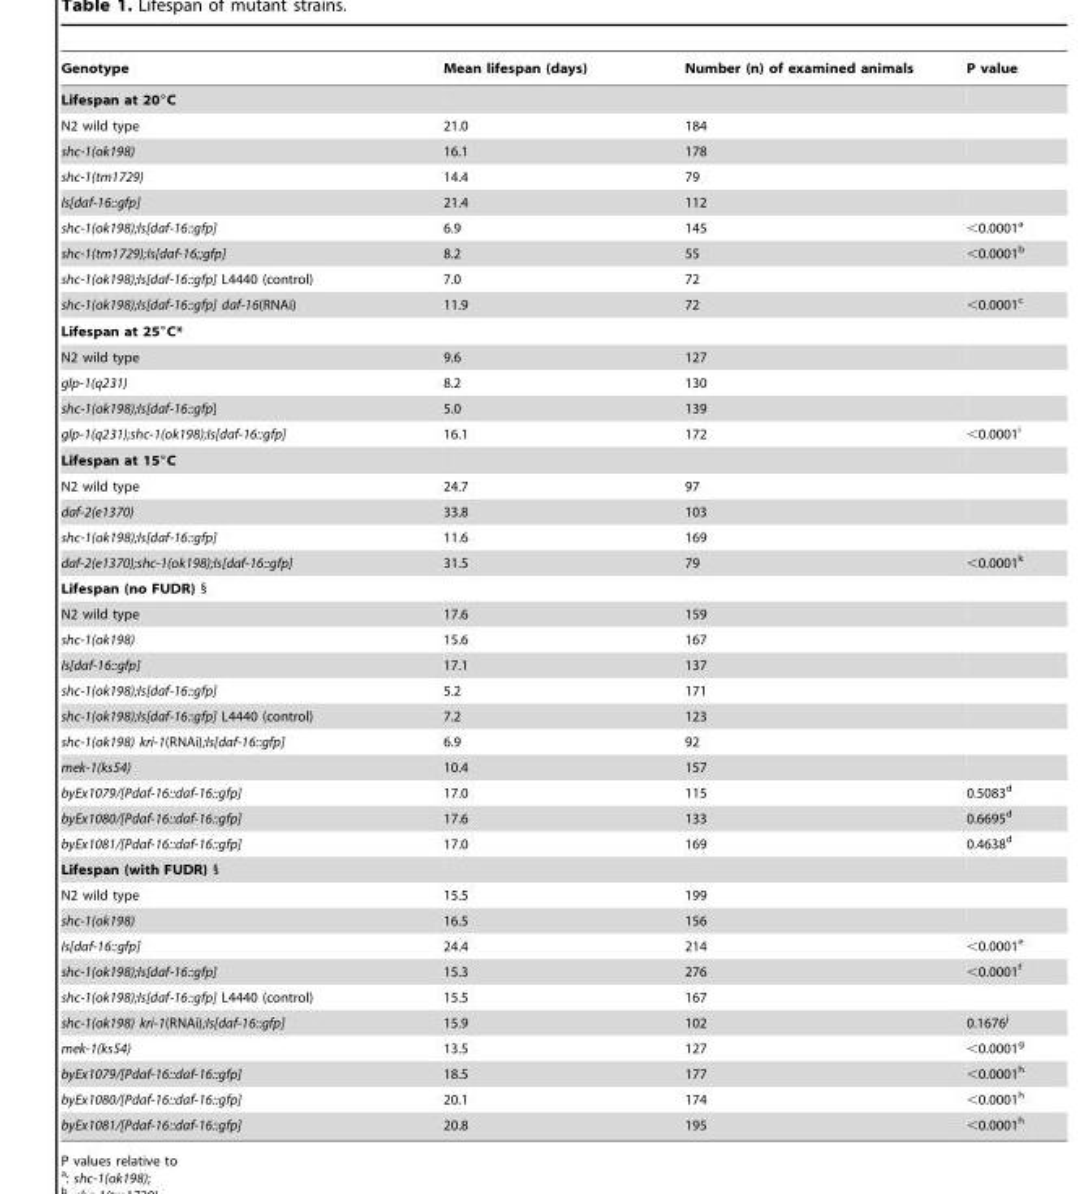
<table><thead><tr><td>Genotype</td><td>Mean lifespan (days)</td><td>Number (n) of examined animals</td><td>P value</td></tr></thead><tbody><tr><td colspan="4">Lifespan at 20°C</td></tr><tr><td>N2 wild type</td><td>21.0</td><td>184</td><td></td></tr><tr><td>shc-1(ok198)</td><td>16.1</td><td>178</td><td></td></tr><tr><td>shc-1(tm1729)</td><td>14.4</td><td>79</td><td></td></tr><tr><td>Is[daf-16::gfp]</td><td>21.4</td><td>112</td><td></td></tr><tr><td>shc-1(ok198);Is[daf-16::gfp]</td><td>6.9</td><td>145</td><td>&lt;0.0001<sup>a</sup></td></tr><tr><td>shc-1(tm1729);Is[daf-16;;gfp]</td><td>8.2</td><td>55</td><td>&lt;0.0001<sup>b</sup></td></tr><tr><td>shc-1(ok198);Is[daf-16::gfp] L4440 (control)</td><td>7.0</td><td>72</td><td></td></tr><tr><td>shc-1(ok198);Is[daf-16::gfp] daf-16(RNAi)</td><td>11.9</td><td>72</td><td>&lt;0.0001<sup>c</sup></td></tr><tr><td colspan="4">Lifespan at 25°C*</td></tr><tr><td>N2 wild type</td><td>9.6</td><td>127</td><td></td></tr><tr><td>glp-1(q231)</td><td>8.2</td><td>130</td><td></td></tr><tr><td>shc-1(ok198);Is[daf-16::gfp]</td><td>5.0</td><td>139</td><td></td></tr><tr><td>glp-1(q231);shc-1(ok198);Is[daf-16::gfp]</td><td>16.1</td><td>172</td><td>&lt;0.0001<sup>i</sup></td></tr><tr><td colspan="4">Lifespan at 15°C</td></tr><tr><td>N2 wild type</td><td>24.7</td><td>97</td><td></td></tr><tr><td>daf-2(e1370)</td><td>33.8</td><td>103</td><td></td></tr><tr><td>shc-1(ok198);Is[daf-16::gfp]</td><td>11.6</td><td>169</td><td></td></tr><tr><td>daf-2(e1370);shc-1(ok198);Is[daf-16::gfp]</td><td>31.5</td><td>79</td><td>&lt;0.0001<sup>k</sup></td></tr><tr><td colspan="4">Lifespan (no FUDR) §</td></tr><tr><td>N2 wild type</td><td>17.6</td><td>159</td><td></td></tr><tr><td>shc-1(ok198)</td><td>15.6</td><td>167</td><td></td></tr><tr><td>Is[daf-16::gfp]</td><td>17.1</td><td>137</td><td></td></tr><tr><td>shc-1(ok198);Is[daf-16::gfp]</td><td>5.2</td><td>171</td><td></td></tr><tr><td>shc-1(ok198);Is[daf-16::gfp] L4440 (control)</td><td>7.2</td><td>123</td><td></td></tr><tr><td>shc-1(ok198) kri-1(RNAi);Is[daf-16::gfp]</td><td>6.9</td><td>92</td><td></td></tr><tr><td>mek-1(ks54)</td><td>10.4</td><td>157</td><td></td></tr><tr><td>byEx1079/[Pdaf-16::daf-16::gfp]</td><td>17.0</td><td>115</td><td>0.5083<sup>d</sup></td></tr><tr><td>byEx1080/[Pdaf-16::daf-16::gfp]</td><td>17.6</td><td>133</td><td>0.6695<sup>d</sup></td></tr><tr><td>byEx1081/[Pdaf-16::daf-16::gfp]</td><td>17.0</td><td>169</td><td>0.4638<sup>d</sup></td></tr><tr><td colspan="4">Lifespan (with FUDR) §</td></tr><tr><td>N2 wild type</td><td>15.5</td><td>199</td><td></td></tr><tr><td>shc-1(ok198)</td><td>16.5</td><td>156</td><td></td></tr><tr><td>Is[daf-16::gfp]</td><td>24.4</td><td>214</td><td>&lt;0.0001<sup>e</sup></td></tr><tr><td>shc-1(ok198);Is[daf-16::gfp]</td><td>15.3</td><td>276</td><td>&lt;0.0001<sup>f</sup></td></tr><tr><td>shc-1(ok198);Is[daf-16::gfp] L4440 (control)</td><td>15.5</td><td>167</td><td></td></tr><tr><td>shc-1(ok198) kri-1(RNAi);Is[daf-16::gfp]</td><td>15.9</td><td>102</td><td>0.1676<sup>j</sup></td></tr><tr><td>mek-1(ks54)</td><td>13.5</td><td>127</td><td>&lt;0.0001<sup>g</sup></td></tr><tr><td>byEx1079/[Pdaf-16::daf-16::gfp]</td><td>18.5</td><td>177</td><td>&lt;0.0001<sup>h</sup></td></tr><tr><td>byEx1080/[Pdaf-16::daf-16::gfp]</td><td>20.1</td><td>174</td><td>&lt;0.0001<sup>h</sup></td></tr><tr><td>byEx1081/[Pdaf-16::daf-16::gfp]</td><td>20.8</td><td>195</td><td>&lt;0.0001<sup>h</sup></td></tr></tbody></table>